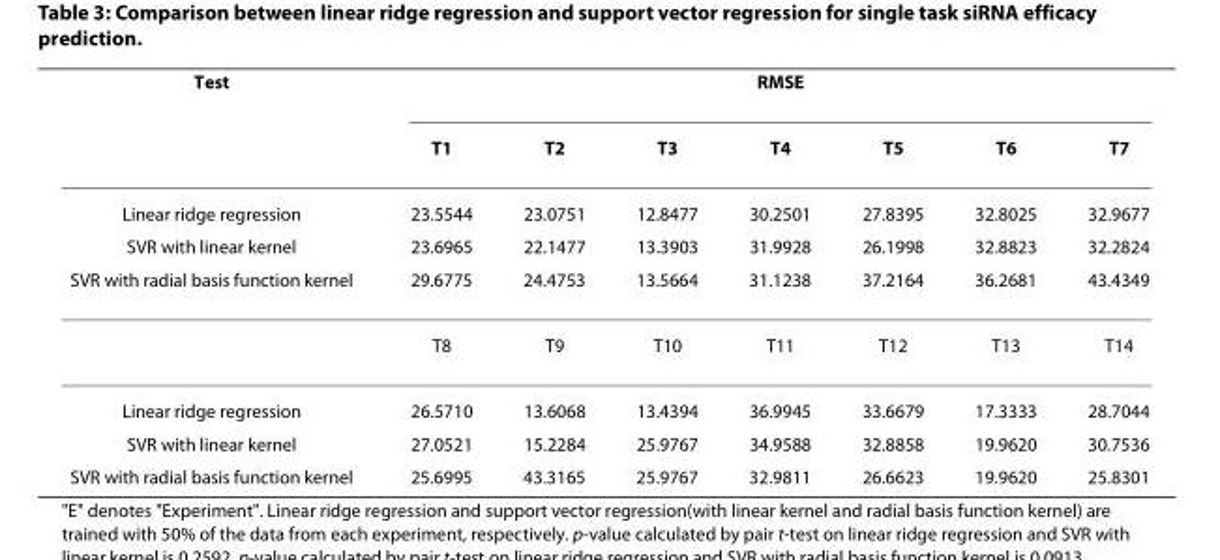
<table><thead><tr><td rowspan="2">Test</td><td colspan="7">RMSE</td></tr><tr><td>T1</td><td>T2</td><td>T3</td><td>T4</td><td>T5</td><td>T6</td><td>T7</td></tr></thead><tbody><tr><td>Linear ridge regression</td><td>23.5544</td><td>23.0751</td><td>12.8477</td><td>30.2501</td><td>27.8395</td><td>32.8025</td><td>32.9677</td></tr><tr><td>SVR with linear kernel</td><td>23.6965</td><td>22.1477</td><td>13.3903</td><td>31.9928</td><td>26.1998</td><td>32.8823</td><td>32.2824</td></tr><tr><td rowspan="2">SVR with radial basis function kernel</td><td>29.6775</td><td>24.4753</td><td>13.5664</td><td>31.1238</td><td>37.2164</td><td>36.2681</td><td>43.4349</td></tr><tr><td>T8</td><td>T9</td><td>T10</td><td>T11</td><td>T12</td><td>T13</td><td>T14</td></tr><tr><td>Linear ridge regression</td><td>26.5710</td><td>13.6068</td><td>13.4394</td><td>36.9945</td><td>33.6679</td><td>17.3333</td><td>28.7044</td></tr><tr><td>SVR with linear kernel</td><td>27.0521</td><td>15.2284</td><td>25.9767</td><td>34.9588</td><td>32.8858</td><td>19.9620</td><td>30.7536</td></tr><tr><td>SVR with radial basis function kernel</td><td>25.6995</td><td>43.3165</td><td>25.9767</td><td>32.9811</td><td>26.6623</td><td>19.9620</td><td>25.8301</td></tr></tbody></table>